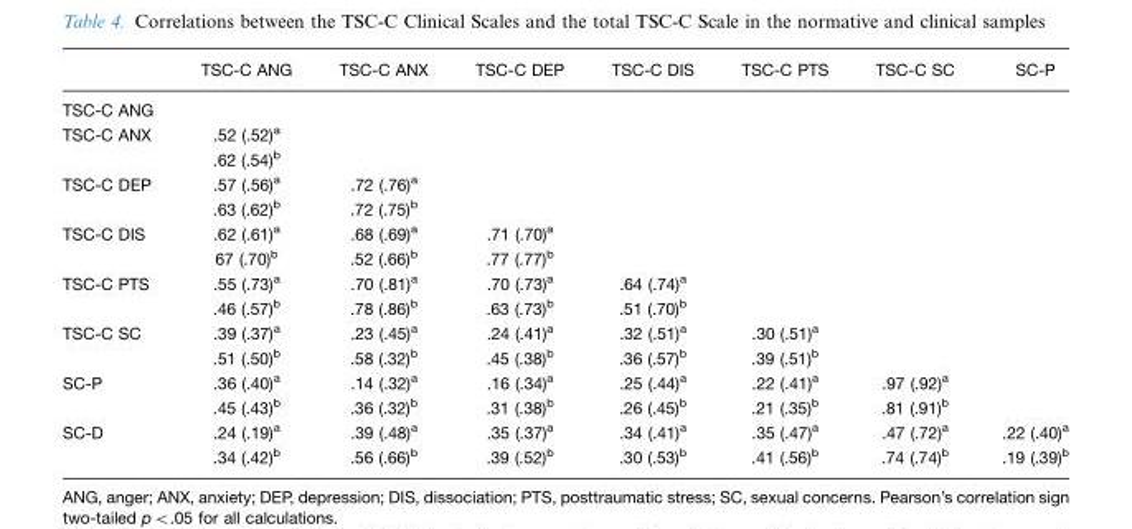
<table><thead><tr><td></td><td>TSC-C ANG</td><td>TSC-C ANX</td><td>TSC-C DEP</td><td>TSC-C DIS</td><td>TSC-C PTS</td><td>TSC-C SC</td><td>SC-P</td></tr></thead><tbody><tr><td colspan="8">TSC-C ANG</td></tr><tr><td rowspan="2">TSC-C ANX</td><td>.52 (.52)<sup>a</sup></td><td></td><td></td><td></td><td></td><td></td><td></td></tr><tr><td>.62 (.54)<sup>b</sup></td><td></td><td></td><td></td><td></td><td></td><td></td></tr><tr><td rowspan="2">TSC-C DEP</td><td>.57 (.56)<sup>a</sup></td><td>.72 (.76)<sup>a</sup></td><td></td><td></td><td></td><td></td><td></td></tr><tr><td>.63 (.62)<sup>b</sup></td><td>.72 (.75)<sup>b</sup></td><td></td><td></td><td></td><td></td><td></td></tr><tr><td rowspan="2">TSC-C DIS</td><td>.62 (.61)<sup>a</sup></td><td>.68 (.69)<sup>a</sup></td><td>.71 (.70)<sup>a</sup></td><td></td><td></td><td></td><td></td></tr><tr><td>67 (.70)<sup>b</sup></td><td>.52 (.66)<sup>b</sup></td><td>.77 (.77)<sup>b</sup></td><td></td><td></td><td></td><td></td></tr><tr><td rowspan="2">TSC-C PTS</td><td>.55 (.73)<sup>a</sup></td><td>.70 (.81)<sup>a</sup></td><td>.70 (.73)<sup>a</sup></td><td>.64 (.74)<sup>a</sup></td><td></td><td></td><td></td></tr><tr><td>.46 (.57)<sup>b</sup></td><td>.78 (.86)<sup>b</sup></td><td>.63 (.73)<sup>b</sup></td><td>.51 (.70)<sup>b</sup></td><td></td><td></td><td></td></tr><tr><td rowspan="2">TSC-C SC</td><td>.39 (.37)<sup>a</sup></td><td>.23 (.45)<sup>a</sup></td><td>.24 (.41)<sup>a</sup></td><td>.32 (.51)<sup>a</sup></td><td>.30 (.51)<sup>a</sup></td><td></td><td></td></tr><tr><td>.51 (.50)<sup>b</sup></td><td>.58 (.32)<sup>b</sup></td><td>.45 (.38)<sup>b</sup></td><td>.36 (.57)<sup>b</sup></td><td>.39 (.51)<sup>b</sup></td><td></td><td></td></tr><tr><td rowspan="2">SC-P</td><td>.36 (.40)<sup>a</sup></td><td>.14 (.32)<sup>a</sup></td><td>.16 (.34)<sup>a</sup></td><td>.25 (.44)<sup>a</sup></td><td>.22 (.41)<sup>a</sup></td><td>.97 (.92)<sup>a</sup></td><td></td></tr><tr><td>.45 (.43)<sup>b</sup></td><td>.36 (.32)<sup>b</sup></td><td>.31 (.38)<sup>b</sup></td><td>.26 (.45)<sup>b</sup></td><td>.21 (.35)<sup>b</sup></td><td>.81 (.91)<sup>b</sup></td><td></td></tr><tr><td rowspan="2">SC-D</td><td>.24 (.19)<sup>a</sup></td><td>.39 (.48)<sup>a</sup></td><td>.35 (.37)<sup>a</sup></td><td>.34 (.41)<sup>a</sup></td><td>.35 (.47)<sup>a</sup></td><td>.47 (.72)<sup>a</sup></td><td>.22 (.40)<sup>a</sup></td></tr><tr><td>.34 (.42)<sup>b</sup></td><td>.56 (.66)<sup>b</sup></td><td>.39 (.52)<sup>b</sup></td><td>.30 (.53)<sup>b</sup></td><td>.41 (.56)<sup>b</sup></td><td>.74 (.74)<sup>b</sup></td><td>.19 (.39)<sup>b</sup></td></tr></tbody></table>